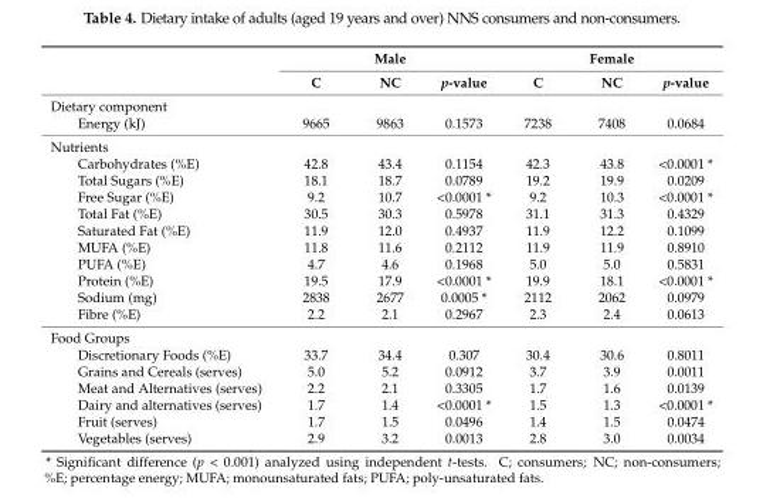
<table><thead><tr><td rowspan="2"></td><td colspan="3">Male</td><td colspan="3">Female</td></tr><tr><td>C</td><td>NC</td><td>p-value</td><td>C</td><td>NC</td><td>p-value</td></tr></thead><tbody><tr><td colspan="7">Dietary component</td></tr><tr><td>Energy (kJ)</td><td>9665</td><td>9863</td><td>0.1573</td><td>7238</td><td>7408</td><td>0.0684</td></tr><tr><td colspan="7">Nutrients</td></tr><tr><td>Carbohydrates (%E)</td><td>42.8</td><td>43.4</td><td>0.1154</td><td>42.3</td><td>43.8</td><td>&lt;0.0001 *</td></tr><tr><td>Total Sugars (%E)</td><td>18.1</td><td>18.7</td><td>0.0789</td><td>19.2</td><td>19.9</td><td>0.0209</td></tr><tr><td>Free Sugar (%E)</td><td>9.2</td><td>10.7</td><td>&lt;0.0001 *</td><td>9.2</td><td>10.3</td><td>&lt;0.0001 *</td></tr><tr><td>Total Fat (%E)</td><td>30.5</td><td>30.3</td><td>0.5978</td><td>31.1</td><td>31.3</td><td>0.4329</td></tr><tr><td>Saturated Fat (%E)</td><td>11.9</td><td>12.0</td><td>0.4937</td><td>11.9</td><td>12.2</td><td>0.1099</td></tr><tr><td>MUFA (%E)</td><td>11.8</td><td>11.6</td><td>0.2112</td><td>11.9</td><td>11.9</td><td>0.8910</td></tr><tr><td>PUFA (%E)</td><td>4.7</td><td>4.6</td><td>0.1968</td><td>5.0</td><td>5.0</td><td>0.5831</td></tr><tr><td>Protein (%E)</td><td>19.5</td><td>17.9</td><td>&lt;0.0001 *</td><td>19.9</td><td>18.1</td><td>&lt;0.0001 *</td></tr><tr><td>Sodium (mg)</td><td>2838</td><td>2677</td><td>0.0005 *</td><td>2112</td><td>2062</td><td>0.0979</td></tr><tr><td>Fibre (%E)</td><td>2.2</td><td>2.1</td><td>0.2967</td><td>2.3</td><td>2.4</td><td>0.0613</td></tr><tr><td colspan="7">Food Groups</td></tr><tr><td>Discretionary Foods (%E)</td><td>33.7</td><td>34.4</td><td>0.307</td><td>30.4</td><td>30.6</td><td>0.8011</td></tr><tr><td>Grains and Cereals (serves)</td><td>5.0</td><td>5.2</td><td>0.0912</td><td>3.7</td><td>3.9</td><td>0.0011</td></tr><tr><td>Meat and Alternatives (serves)</td><td>2.2</td><td>2.1</td><td>0.3305</td><td>1.7</td><td>1.6</td><td>0.0139</td></tr><tr><td>Dairy and alternatives (serves)</td><td>1.7</td><td>1.4</td><td>&lt;0.0001 *</td><td>1.5</td><td>1.3</td><td>&lt;0.0001 *</td></tr><tr><td>Fruit (serves)</td><td>1.7</td><td>1.5</td><td>0.0496</td><td>1.4</td><td>1.5</td><td>0.0474</td></tr><tr><td>Vegetables (serves)</td><td>2.9</td><td>3.2</td><td>0.0013</td><td>2.8</td><td>3.0</td><td>0.0034</td></tr></tbody></table>